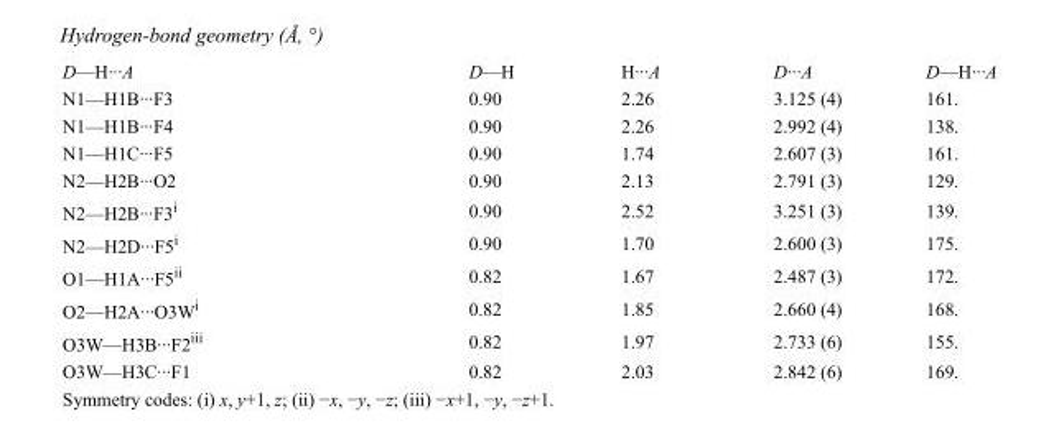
<table><tbody><tr><td>D—H···A</td><td>D—H</td><td>H···A</td><td>D···A</td><td>D—H···A</td></tr><tr><td>N1—H1B···F3</td><td>0.90</td><td>2.26</td><td>3.125 (4)</td><td>161.</td></tr><tr><td>N1—H1B···F4</td><td>0.90</td><td>2.26</td><td>2.992 (4)</td><td>138.</td></tr><tr><td>N1—H1C···F5</td><td>0.90</td><td>1.74</td><td>2.607 (3)</td><td>161.</td></tr><tr><td>N2—H2B···O2</td><td>0.90</td><td>2.13</td><td>2.791 (3)</td><td>129.</td></tr><tr><td>N2—H2B···F3<sup>i</sup></td><td>0.90</td><td>2.52</td><td>3.251 (3)</td><td>139.</td></tr><tr><td>N2—H2D···F5<sup>i</sup></td><td>0.90</td><td>1.70</td><td>2.600 (3)</td><td>175.</td></tr><tr><td>O1—H1A···F5<sup>ii</sup></td><td>0.82</td><td>1.67</td><td>2.487 (3)</td><td>172.</td></tr><tr><td>O2—H2A···O3W<sup>i</sup></td><td>0.82</td><td>1.85</td><td>2.660 (4)</td><td>168.</td></tr><tr><td>O3W—H3B···F2<sup>iii</sup></td><td>0.82</td><td>1.97</td><td>2.733 (6)</td><td>155.</td></tr><tr><td>O3W—H3C···F1</td><td>0.82</td><td>2.03</td><td>2.842 (6)</td><td>169.</td></tr></tbody></table>